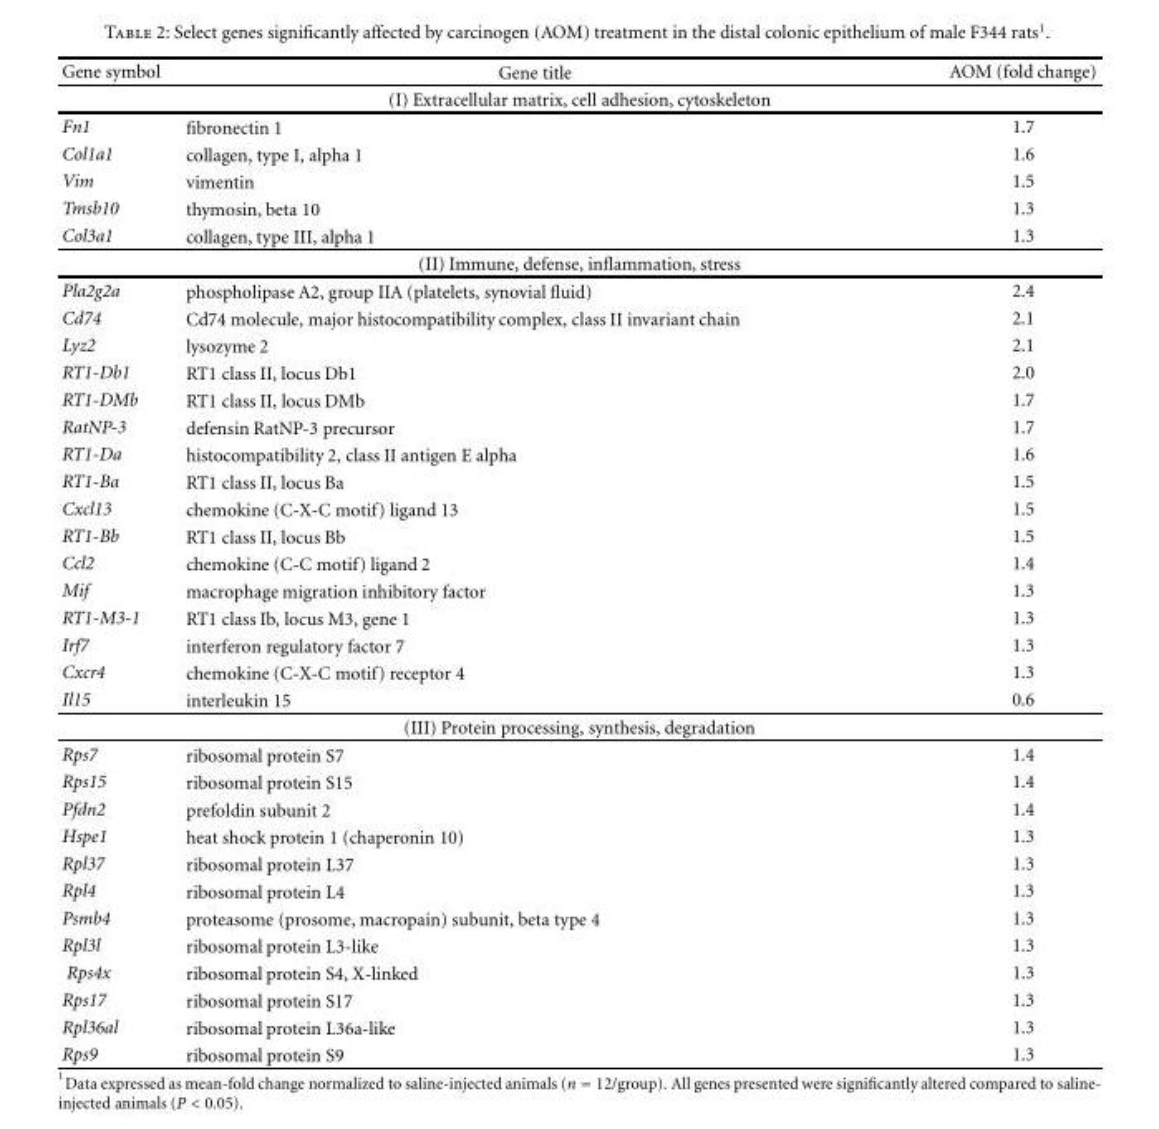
<table><thead><tr><td>Gene symbol</td><td>Gene title</td><td>AOM (fold change)</td></tr></thead><tbody><tr><td colspan="3">(I) Extracellular matrix, cell adhesion, cytoskeleton</td></tr><tr><td>Fn1</td><td>fibronectin 1</td><td>1.7</td></tr><tr><td>Col1a1</td><td>collagen, type I, alpha 1</td><td>1.6</td></tr><tr><td>Vim</td><td>vimentin</td><td>1.5</td></tr><tr><td>Tmsb10</td><td>thymosin, beta 10</td><td>1.3</td></tr><tr><td>Col3a1</td><td>collagen, type III, alpha 1</td><td>1.3</td></tr><tr><td colspan="3">(II) Immune, defense, inflammation, stress</td></tr><tr><td>Pla2g2a</td><td>phospholipase A2, group IIA (platelets, synovial fluid)</td><td>2.4</td></tr><tr><td>Cd74</td><td>Cd74 molecule, major histocompatibility complex, class II invariant chain</td><td>2.1</td></tr><tr><td>Lyz2</td><td>lysozyme 2</td><td>2.1</td></tr><tr><td>RT1-Db1</td><td>RT1 class II, locus Db1</td><td>2.0</td></tr><tr><td>RT1-DMb</td><td>RT1 class II, locus DMb</td><td>1.7</td></tr><tr><td>RatNP-3</td><td>defensin RatNP-3 precursor</td><td>1.7</td></tr><tr><td>RT1-Da</td><td>histocompatibility 2, class II antigen E alpha</td><td>1.6</td></tr><tr><td>RT1-Ba</td><td>RT1 class II, locus Ba</td><td>1.5</td></tr><tr><td>Cxcl13</td><td>chemokine (C-X-C motif) ligand 13</td><td>1.5</td></tr><tr><td>RT1-Bb</td><td>RT1 class II, locus Bb</td><td>1.5</td></tr><tr><td>Ccl2</td><td>chemokine (C-C motif) ligand 2</td><td>1.4</td></tr><tr><td>Mif</td><td>macrophage migration inhibitory factor</td><td>1.3</td></tr><tr><td>RT1-M3-1</td><td>RT1 class Ib, locus M3, gene 1</td><td>1.3</td></tr><tr><td>Irf7</td><td>interferon regulatory factor 7</td><td>1.3</td></tr><tr><td>Cxcr4</td><td>chemokine (C-X-C motif) receptor 4</td><td>1.3</td></tr><tr><td>Il15</td><td>interleukin 15</td><td>0.6</td></tr><tr><td colspan="3">(III) Protein processing, synthesis, degradation</td></tr><tr><td>Rps7</td><td>ribosomal protein S7</td><td>1.4</td></tr><tr><td>Rps15</td><td>ribosomal protein S15</td><td>1.4</td></tr><tr><td>Pfdn2</td><td>prefoldin subunit 2</td><td>1.4</td></tr><tr><td>Hspe1</td><td>heat shock protein 1 (chaperonin 10)</td><td>1.3</td></tr><tr><td>Rpl37</td><td>ribosomal protein L37</td><td>1.3</td></tr><tr><td>Rpl4</td><td>ribosomal protein L4</td><td>1.3</td></tr><tr><td>Psmb4</td><td>proteasome (prosome, macropain) subunit, beta type 4</td><td>1.3</td></tr><tr><td>Rpl3l</td><td>ribosomal protein L3-like</td><td>1.3</td></tr><tr><td>Rps4x</td><td>ribosomal protein S4, X-linked</td><td>1.3</td></tr><tr><td>Rps17</td><td>ribosomal protein S17</td><td>1.3</td></tr><tr><td>Rpl36al</td><td>ribosomal protein L36a-like</td><td>1.3</td></tr><tr><td>Rps9</td><td>ribosomal protein S9</td><td>1.3</td></tr></tbody></table>